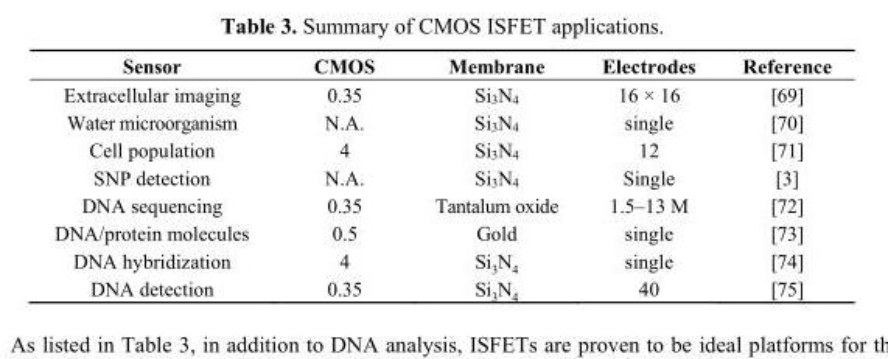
<table><thead><tr><td>Sensor</td><td>CMOS</td><td>Membrane</td><td>Electrodes</td><td>Reference</td></tr></thead><tbody><tr><td>Extracellular imaging</td><td>0.35</td><td>Si<sub>3</sub>N<sub>4</sub></td><td>16 × 16</td><td>[69]</td></tr><tr><td>Water microorganism</td><td>N.A.</td><td>Si<sub>3</sub>N<sub>4</sub></td><td>single</td><td>[70]</td></tr><tr><td>Cell population</td><td>4</td><td>Si<sub>3</sub>N<sub>4</sub></td><td>12</td><td>[71]</td></tr><tr><td>SNP detection</td><td>N.A.</td><td>Si<sub>3</sub>N<sub>4</sub></td><td>Single</td><td>[3]</td></tr><tr><td>DNA sequencing</td><td>0.35</td><td>Tantalum oxide</td><td>1.5–13 M</td><td>[72]</td></tr><tr><td>DNA/protein molecules</td><td>0.5</td><td>Gold</td><td>single</td><td>[73]</td></tr><tr><td>DNA hybridization</td><td>4</td><td>Si<sub>3</sub>N<sub>4</sub></td><td>single</td><td>[74]</td></tr><tr><td>DNA detection</td><td>0.35</td><td>Si<sub>3</sub>N<sub>4</sub></td><td>40</td><td>[75]</td></tr></tbody></table>